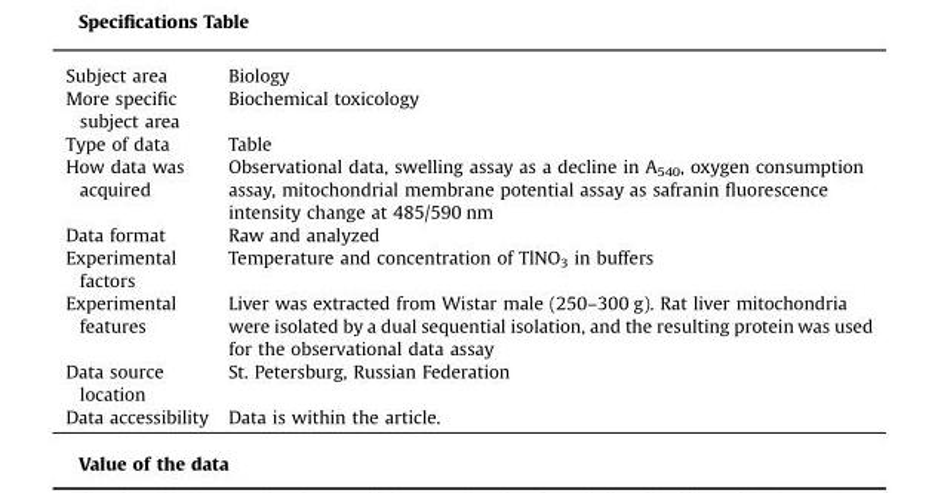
<table><tbody><tr><td>Subject area</td><td>Biology</td></tr><tr><td>More specific subject area</td><td>Biochemical toxicology</td></tr><tr><td>Type of data</td><td>Table</td></tr><tr><td>How data was acquired</td><td>Observational data, swelling assay as a decline in A<sub>540</sub>, oxygen consumption assay, mitochondrial membrane potential assay as safranin fluorescence intensity change at 485/590 nm</td></tr><tr><td>Data format</td><td>Raw and analyzed</td></tr><tr><td>Experimental factors</td><td>Temperature and concentration of TlNO<sub>3</sub> in buffers</td></tr><tr><td>Experimental features</td><td>Liver was extracted from Wistar male (250–300 g). Rat liver mitochondria were isolated by a dual sequential isolation, and the resulting protein was used for the observational data assay</td></tr><tr><td>Data source location</td><td>St. Petersburg, Russian Federation</td></tr><tr><td>Data accessibility</td><td>Data is within the article.</td></tr></tbody></table>